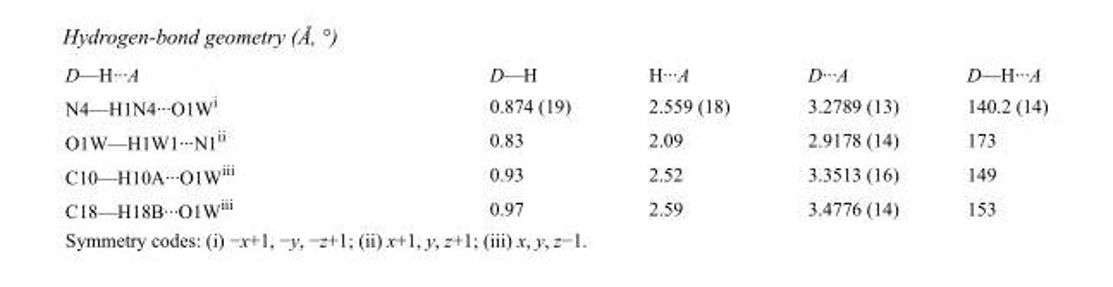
<table><tbody><tr><td>D—H···A</td><td>D—H</td><td>H···A</td><td>D···A</td><td>D—H···A</td></tr><tr><td>N4—H1N4···O1W<sup>i</sup></td><td>0.874 (19)</td><td>2.559 (18)</td><td>3.2789 (13)</td><td>140.2 (14)</td></tr><tr><td>O1W—H1W1···N1<sup>ii</sup></td><td>0.83</td><td>2.09</td><td>2.9178 (14)</td><td>173</td></tr><tr><td>C10—H10A···O1W<sup>iii</sup></td><td>0.93</td><td>2.52</td><td>3.3513 (16)</td><td>149</td></tr><tr><td>C18—H18B···O1W<sup>iii</sup></td><td>0.97</td><td>2.59</td><td>3.4776 (14)</td><td>153</td></tr></tbody></table>